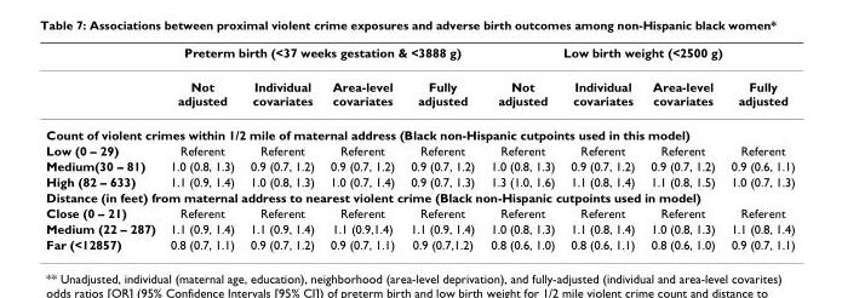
<table><thead><tr><td rowspan="2"></td><td colspan="4">Preterm birth (&lt;37 weeks gestation &amp; &lt;3888 g)</td><td colspan="4">Low birth weight (&lt;2500 g)</td></tr><tr><td>Not adjusted</td><td>Individual covariates</td><td>Area-level covariates</td><td>Fully adjusted</td><td>Not adjusted</td><td>Individual covariates</td><td>Area-level covariates</td><td>Fully adjusted</td></tr></thead><tbody><tr><td colspan="9">Count of violent crimes within 1/2 mile of maternal address (Black non-Hispanic cutpoints used in this model)</td></tr><tr><td>Low (0 – 29)</td><td>Referent</td><td>Referent</td><td>Referent</td><td>Referent</td><td>Referent</td><td>Referent</td><td>Referent</td><td>Referent</td></tr><tr><td>Medium(30 – 81)</td><td>1.0 (0.8, 1.3)</td><td>0.9 (0.7, 1.2)</td><td>0.9 (0.7, 1.2)</td><td>0.9 (0.7, 1.2)</td><td>1.0 (0.8, 1.3)</td><td>0.9 (0.7, 1.2)</td><td>0.9 (0.7, 1.2)</td><td>0.9 (0.6, 1.1)</td></tr><tr><td>High (82 – 633)</td><td>1.1 (0.9, 1.4)</td><td>1.0 (0.8, 1.3)</td><td>1.0 (0.7, 1.4)</td><td>0.9 (0.7, 1.3)</td><td>1.3 (1.0, 1.6)</td><td>1.1 (0.8, 1.4)</td><td>1.1 (0.8, 1.5)</td><td>1.0 (0.7, 1.3)</td></tr><tr><td colspan="9">Distance (in feet) from maternal address to nearest violent crime (Black non-Hispanic cutpoints used in model)</td></tr><tr><td>Close (0 – 21)</td><td>Referent</td><td>Referent</td><td>Referent</td><td>Referent</td><td>Referent</td><td>Referent</td><td>Referent</td><td>Referent</td></tr><tr><td>Medium (22 – 287)</td><td>1.1 (0.9, 1.4)</td><td>1.1 (0.9, 1.4)</td><td>1.1 (0.9,1.4)</td><td>1.1 (0.9, 1.4)</td><td>1.0 (0.8, 1.3)</td><td>1.1 (0.8, 1.4)</td><td>1.0 (0.8, 1.3)</td><td>1.1 (0.8, 1.4)</td></tr><tr><td>Far (&lt;12857)</td><td>0.8 (0.7, 1.1)</td><td>0.9 (0.7, 1.2)</td><td>0.9 (0.7, 1.1)</td><td>0.9 (0.7,1.2)</td><td>0.8 (0.6, 1.0)</td><td>0.8 (0.6, 1.1)</td><td>0.8 (0.6, 1.0)</td><td>0.9 (0.7, 1.1)</td></tr></tbody></table>